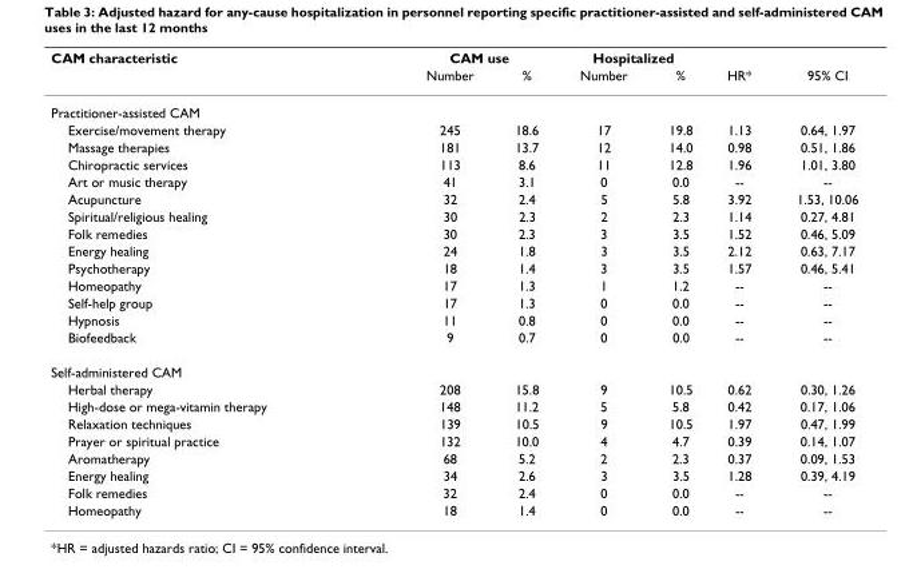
<table><thead><tr><td rowspan="2">CAM characteristic</td><td colspan="2">CAM use</td><td colspan="2">Hospitalized</td><td rowspan="2">HR*</td><td rowspan="2">95% CI</td></tr><tr><td>Number</td><td>%</td><td>Number</td><td>%</td></tr></thead><tbody><tr><td colspan="7">Practitioner-assisted CAM</td></tr><tr><td>Exercise/movement therapy</td><td>245</td><td>18.6</td><td>17</td><td>19.8</td><td>1.13</td><td>0.64, 1.97</td></tr><tr><td>Massage therapies</td><td>181</td><td>13.7</td><td>12</td><td>14.0</td><td>0.98</td><td>0.51, 1.86</td></tr><tr><td>Chiropractic services</td><td>113</td><td>8.6</td><td>11</td><td>12.8</td><td>1.96</td><td>1.01, 3.80</td></tr><tr><td>Art or music therapy</td><td>41</td><td>3.1</td><td>0</td><td>0.0</td><td>--</td><td>--</td></tr><tr><td>Acupuncture</td><td>32</td><td>2.4</td><td>5</td><td>5.8</td><td>3.92</td><td>1.53, 10.06</td></tr><tr><td>Spiritual/religious healing</td><td>30</td><td>2.3</td><td>2</td><td>2.3</td><td>1.14</td><td>0.27, 4.81</td></tr><tr><td>Folk remedies</td><td>30</td><td>2.3</td><td>3</td><td>3.5</td><td>1.52</td><td>0.46, 5.09</td></tr><tr><td>Energy healing</td><td>24</td><td>1.8</td><td>3</td><td>3.5</td><td>2.12</td><td>0.63, 7.17</td></tr><tr><td>Psychotherapy</td><td>18</td><td>1.4</td><td>3</td><td>3.5</td><td>1.57</td><td>0.46, 5.41</td></tr><tr><td>Homeopathy</td><td>17</td><td>1.3</td><td>1</td><td>1.2</td><td>--</td><td>--</td></tr><tr><td>Self-help group</td><td>17</td><td>1.3</td><td>0</td><td>0.0</td><td>--</td><td>--</td></tr><tr><td>Hypnosis</td><td>11</td><td>0.8</td><td>0</td><td>0.0</td><td>--</td><td>--</td></tr><tr><td>Biofeedback</td><td>9</td><td>0.7</td><td>0</td><td>0.0</td><td>--</td><td>--</td></tr><tr><td colspan="7">Self-administered CAM</td></tr><tr><td>Herbal therapy</td><td>208</td><td>15.8</td><td>9</td><td>10.5</td><td>0.62</td><td>0.30, 1.26</td></tr><tr><td>High-dose or mega-vitamin therapy</td><td>148</td><td>11.2</td><td>5</td><td>5.8</td><td>0.42</td><td>0.17, 1.06</td></tr><tr><td>Relaxation techniques</td><td>139</td><td>10.5</td><td>9</td><td>10.5</td><td>1.97</td><td>0.47, 1.99</td></tr><tr><td>Prayer or spiritual practice</td><td>132</td><td>10.0</td><td>4</td><td>4.7</td><td>0.39</td><td>0.14, 1.07</td></tr><tr><td>Aromatherapy</td><td>68</td><td>5.2</td><td>2</td><td>2.3</td><td>0.37</td><td>0.09, 1.53</td></tr><tr><td>Energy healing</td><td>34</td><td>2.6</td><td>3</td><td>3.5</td><td>1.28</td><td>0.39, 4.19</td></tr><tr><td>Folk remedies</td><td>32</td><td>2.4</td><td>0</td><td>0.0</td><td>--</td><td>--</td></tr><tr><td>Homeopathy</td><td>18</td><td>1.4</td><td>0</td><td>0.0</td><td>--</td><td>--</td></tr></tbody></table>